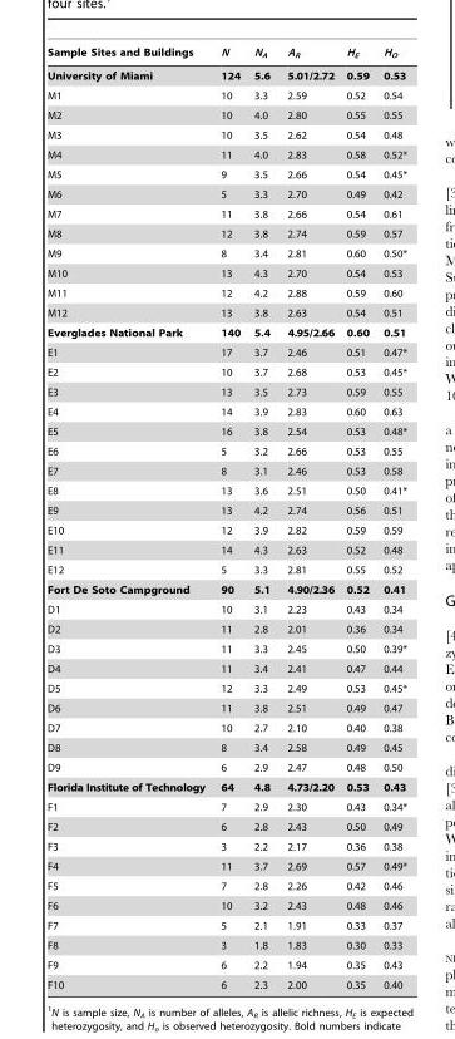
<table><thead><tr><td>Sample Sites and Buildings</td><td>N</td><td>N<sub>A</sub></td><td>A<sub>R</sub></td><td>H<sub>E</sub></td><td>H<sub>O</sub></td></tr></thead><tbody><tr><td>University of Miami</td><td>124</td><td>5.6</td><td>5.01/2.72</td><td>0.59</td><td>0.53</td></tr><tr><td>M1</td><td>10</td><td>3.3</td><td>2.59</td><td>0.52</td><td>0.54</td></tr><tr><td>M2</td><td>10</td><td>4.0</td><td>2.80</td><td>0.55</td><td>0.55</td></tr><tr><td>M3</td><td>10</td><td>3.5</td><td>2.62</td><td>0.54</td><td>0.48</td></tr><tr><td>M4</td><td>11</td><td>4.0</td><td>2.83</td><td>0.58</td><td>0.52*</td></tr><tr><td>M5</td><td>9</td><td>3.5</td><td>2.66</td><td>0.54</td><td>0.45*</td></tr><tr><td>M6</td><td>5</td><td>3.3</td><td>2.70</td><td>0.49</td><td>0.42</td></tr><tr><td>M7</td><td>11</td><td>3.8</td><td>2.66</td><td>0.54</td><td>0.61</td></tr><tr><td>M8</td><td>12</td><td>3.8</td><td>2.74</td><td>0.59</td><td>0.57</td></tr><tr><td>M9</td><td>8</td><td>3.4</td><td>2.81</td><td>0.60</td><td>0.50*</td></tr><tr><td>M10</td><td>13</td><td>4.3</td><td>2.70</td><td>0.54</td><td>0.53</td></tr><tr><td>M11</td><td>12</td><td>4.2</td><td>2.88</td><td>0.59</td><td>0.60</td></tr><tr><td>M12</td><td>13</td><td>3.8</td><td>2.63</td><td>0.54</td><td>0.51</td></tr><tr><td>Everglades National Park</td><td>140</td><td>5.4</td><td>4.95/2.66</td><td>0.60</td><td>0.51</td></tr><tr><td>E1</td><td>17</td><td>3.7</td><td>2.46</td><td>0.51</td><td>0.47*</td></tr><tr><td>E2</td><td>10</td><td>3.7</td><td>2.68</td><td>0.53</td><td>0.45*</td></tr><tr><td>E3</td><td>13</td><td>3.5</td><td>2.73</td><td>0.59</td><td>0.55</td></tr><tr><td>E4</td><td>14</td><td>3.9</td><td>2.83</td><td>0.60</td><td>0.63</td></tr><tr><td>E5</td><td>16</td><td>3.8</td><td>2.54</td><td>0.53</td><td>0.48*</td></tr><tr><td>E6</td><td>5</td><td>3.2</td><td>2.66</td><td>0.53</td><td>0.55</td></tr><tr><td>E7</td><td>8</td><td>3.1</td><td>2.46</td><td>0.53</td><td>0.58</td></tr><tr><td>E8</td><td>13</td><td>3.6</td><td>2.51</td><td>0.50</td><td>0.41*</td></tr><tr><td>E9</td><td>13</td><td>4.2</td><td>2.74</td><td>0.56</td><td>0.51</td></tr><tr><td>E10</td><td>12</td><td>3.9</td><td>2.82</td><td>0.59</td><td>0.59</td></tr><tr><td>E11</td><td>14</td><td>4.3</td><td>2.63</td><td>0.52</td><td>0.48</td></tr><tr><td>E12</td><td>5</td><td>3.3</td><td>2.81</td><td>0.55</td><td>0.52</td></tr><tr><td>Fort De Soto Campground</td><td>90</td><td>5.1</td><td>4.90/2.36</td><td>0.52</td><td>0.41</td></tr><tr><td>D1</td><td>10</td><td>3.1</td><td>2.23</td><td>0.43</td><td>0.34</td></tr><tr><td>D2</td><td>11</td><td>2.8</td><td>2.01</td><td>0.36</td><td>0.34</td></tr><tr><td>D3</td><td>11</td><td>3.3</td><td>2.45</td><td>0.50</td><td>0.39*</td></tr><tr><td>D4</td><td>11</td><td>3.4</td><td>2.41</td><td>0.47</td><td>0.44</td></tr><tr><td>D5</td><td>12</td><td>3.3</td><td>2.49</td><td>0.53</td><td>0.45*</td></tr><tr><td>D6</td><td>11</td><td>3.8</td><td>2.51</td><td>0.49</td><td>0.47</td></tr><tr><td>D7</td><td>10</td><td>2.7</td><td>2.10</td><td>0.40</td><td>0.38</td></tr><tr><td>D8</td><td>8</td><td>3.4</td><td>2.58</td><td>0.49</td><td>0.45</td></tr><tr><td>D9</td><td>6</td><td>2.9</td><td>2.47</td><td>0.48</td><td>0.50</td></tr><tr><td>Florida Institute of Technology</td><td>64</td><td>4.8</td><td>4.73/2.20</td><td>0.53</td><td>0.43</td></tr><tr><td>F1</td><td>7</td><td>2.9</td><td>2.30</td><td>0.43</td><td>0.34*</td></tr><tr><td>F2</td><td>6</td><td>2.8</td><td>2.43</td><td>0.50</td><td>0.49</td></tr><tr><td>F3</td><td>3</td><td>2.2</td><td>2.17</td><td>0.36</td><td>0.38</td></tr><tr><td>F4</td><td>11</td><td>3.7</td><td>2.69</td><td>0.57</td><td>0.49*</td></tr><tr><td>F5</td><td>7</td><td>2.8</td><td>2.26</td><td>0.42</td><td>0.46</td></tr><tr><td>F6</td><td>10</td><td>3.2</td><td>2.43</td><td>0.48</td><td>0.46</td></tr><tr><td>F7</td><td>5</td><td>2.1</td><td>1.91</td><td>0.33</td><td>0.37</td></tr><tr><td>F8</td><td>3</td><td>1.8</td><td>1.83</td><td>0.30</td><td>0.33</td></tr><tr><td>F9</td><td>6</td><td>2.2</td><td>1.94</td><td>0.35</td><td>0.43</td></tr><tr><td>F10</td><td>6</td><td>2.3</td><td>2.00</td><td>0.35</td><td>0.40</td></tr></tbody></table>